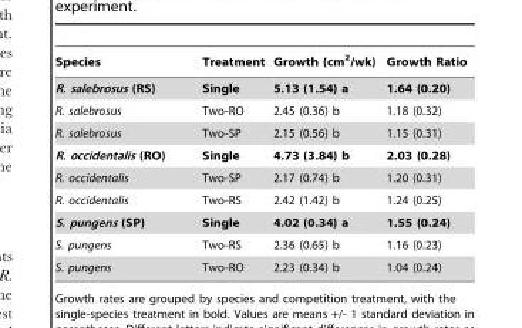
<table><thead><tr><td>Species</td><td>Treatment</td><td>Growth (cm<sup>2</sup>/wk)</td><td>Growth Ratio</td></tr></thead><tbody><tr><td>R. salebrosus (RS)</td><td>Single</td><td>5.13 (1.54) a</td><td>1.64 (0.20)</td></tr><tr><td>R. salebrosus</td><td>Two-RO</td><td>2.45 (0.36) b</td><td>1.18 (0.32)</td></tr><tr><td>R. salebrosus</td><td>Two-SP</td><td>2.15 (0.56) b</td><td>1.15 (0.31)</td></tr><tr><td>R. occidentalis (RO)</td><td>Single</td><td>4.73 (3.84) b</td><td>2.03 (0.28)</td></tr><tr><td>R. occidentalis</td><td>Two-SP</td><td>2.17 (0.74) b</td><td>1.20 (0.31)</td></tr><tr><td>R. occidentalis</td><td>Two-RS</td><td>2.42 (1.42) b</td><td>1.24 (0.25)</td></tr><tr><td>S. pungens (SP)</td><td>Single</td><td>4.02 (0.34) a</td><td>1.55 (0.24)</td></tr><tr><td>S. pungens</td><td>Two-RS</td><td>2.36 (0.65) b</td><td>1.16 (0.23)</td></tr><tr><td>S. pungens</td><td>Two-RO</td><td>2.23 (0.34) b</td><td>1.04 (0.24)</td></tr></tbody></table>